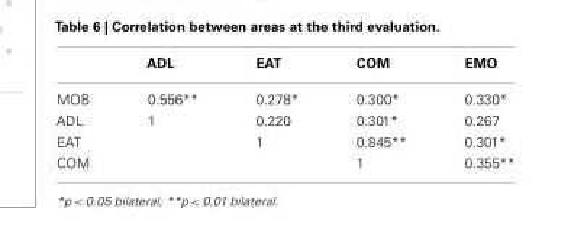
<table><thead><tr><td></td><td>ADL</td><td>EAT</td><td>COM</td><td>EMO</td></tr></thead><tbody><tr><td>MOB</td><td>0.556**</td><td>0.278*</td><td>0.300*</td><td>0.330*</td></tr><tr><td>ADL</td><td>1</td><td>0.220</td><td>0.301*</td><td>0.267</td></tr><tr><td>EAT</td><td></td><td>1</td><td>0.845**</td><td>0.301*</td></tr><tr><td>COM</td><td></td><td></td><td>1</td><td>0.355**</td></tr></tbody></table>